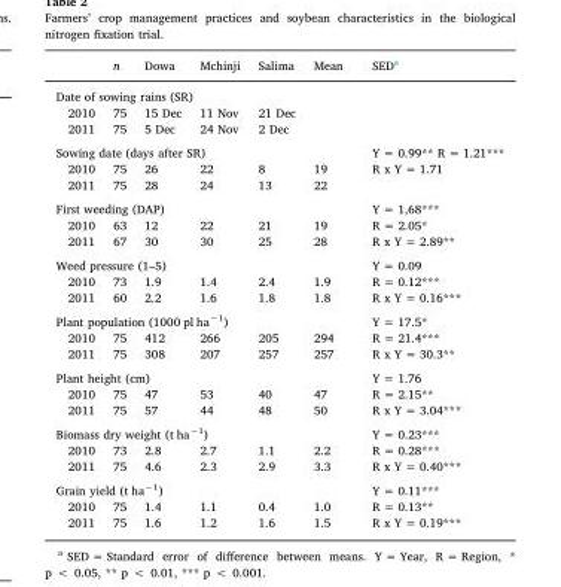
<table><thead><tr><td></td><td>n</td><td>Dowa</td><td>Mchinji</td><td>Salima</td><td>Mean</td><td>SED<sup>a</sup></td></tr></thead><tbody><tr><td colspan="7">Date of sowing rains (SR)</td></tr><tr><td>2010</td><td>75</td><td>15 Dec</td><td>11 Nov</td><td>21 Dec</td><td></td><td></td></tr><tr><td>2011</td><td>75</td><td>5 Dec</td><td>24 Nov</td><td>2 Dec</td><td></td><td></td></tr><tr><td colspan="6">Sowing date (days after SR)</td><td rowspan="3">Y = 0.99** R = 1.21*** R x Y = 1.71</td></tr><tr><td>2010</td><td>75</td><td>26</td><td>22</td><td>8</td><td>19</td></tr><tr><td>2011</td><td>75</td><td>28</td><td>24</td><td>13</td><td>22</td></tr><tr><td colspan="6">First weeding (DAP)</td><td rowspan="3">Y = 1,68*** R = 2.05* R x Y = 2.89**</td></tr><tr><td>2010</td><td>63</td><td>12</td><td>22</td><td>21</td><td>19</td></tr><tr><td>2011</td><td>67</td><td>30</td><td>30</td><td>25</td><td>28</td></tr><tr><td colspan="6">Weed pressure (1–5)</td><td rowspan="3">Y = 0.09 R = 0.12*** R x Y = 0.16***</td></tr><tr><td>2010</td><td>73</td><td>1.9</td><td>1.4</td><td>2.4</td><td>1.9</td></tr><tr><td>2011</td><td>60</td><td>2.2</td><td>1.6</td><td>1.8</td><td>1.8</td></tr><tr><td colspan="6">Plant population (1000 pl ha<sup>−1</sup>)</td><td rowspan="3">Y = 17.5* R = 21.4*** R x Y = 30.3**</td></tr><tr><td>2010</td><td>75</td><td>412</td><td>266</td><td>205</td><td>294</td></tr><tr><td>2011</td><td>75</td><td>308</td><td>207</td><td>257</td><td>257</td></tr><tr><td colspan="6">Plant height (cm)</td><td rowspan="3">Y = 1.76 R = 2.15** R x Y = 3.04***</td></tr><tr><td>2010</td><td>75</td><td>47</td><td>53</td><td>40</td><td>47</td></tr><tr><td>2011</td><td>75</td><td>57</td><td>44</td><td>48</td><td>50</td></tr><tr><td colspan="6">Biomass dry weight (t ha<sup>−1</sup>)</td><td rowspan="3">Y = 0.23*** R = 0.28*** R x Y = 0.40***</td></tr><tr><td>2010</td><td>73</td><td>2.8</td><td>2.7</td><td>1.1</td><td>2.2</td></tr><tr><td>2011</td><td>75</td><td>4.6</td><td>2.3</td><td>2.9</td><td>3.3</td></tr><tr><td colspan="6">Grain yield (t ha<sup>−1</sup>)</td><td rowspan="3">Y = 0.11*** R = 0.13** R x Y = 0.19***</td></tr><tr><td>2010</td><td>75</td><td>1.4</td><td>1.1</td><td>0.4</td><td>1.0</td></tr><tr><td>2011</td><td>75</td><td>1.6</td><td>1.2</td><td>1.6</td><td>1.5</td></tr></tbody></table>